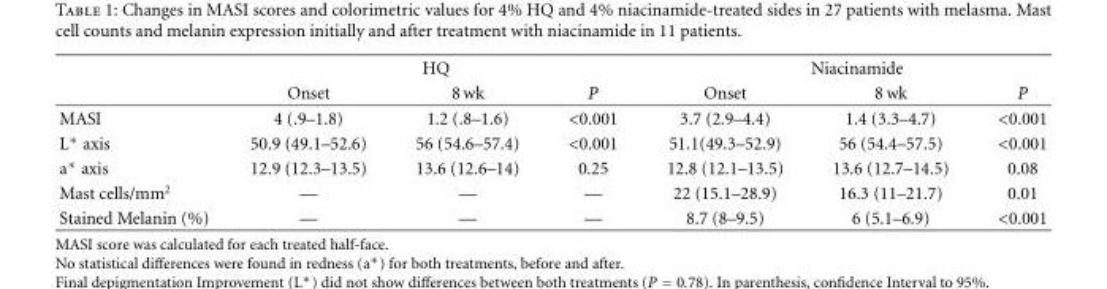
<table><thead><tr><td rowspan="2"></td><td colspan="3">HQ</td><td colspan="3">Niacinamide</td></tr><tr><td>Onset</td><td>8 wk</td><td>P</td><td>Onset</td><td>8 wk</td><td>P</td></tr></thead><tbody><tr><td>MASI</td><td>4 (.9–1.8)</td><td>1.2 (.8–1.6)</td><td>&lt;0.001</td><td>3.7 (2.9–4.4)</td><td>1.4 (3.3–4.7)</td><td>&lt;0.001</td></tr><tr><td>L∗ axis</td><td>50.9 (49.1–52.6)</td><td>56 (54.6–57.4)</td><td>&lt;0.001</td><td>51.1(49.3–52.9)</td><td>56 (54.4–57.5)</td><td>&lt;0.001</td></tr><tr><td>a∗ axis</td><td>12.9 (12.3–13.5)</td><td>13.6 (12.6–14)</td><td>0.25</td><td>12.8 (12.1–13.5)</td><td>13.6 (12.7–14.5)</td><td>0.08</td></tr><tr><td>Mast cells/mm<sup>2</sup></td><td>—</td><td>—</td><td>—</td><td>22 (15.1–28.9)</td><td>16.3 (11–21.7)</td><td>0.01</td></tr><tr><td>Stained Melanin (%)</td><td>—</td><td>—</td><td>—</td><td>8.7 (8–9.5)</td><td>6 (5.1–6.9)</td><td>&lt;0.001</td></tr></tbody></table>